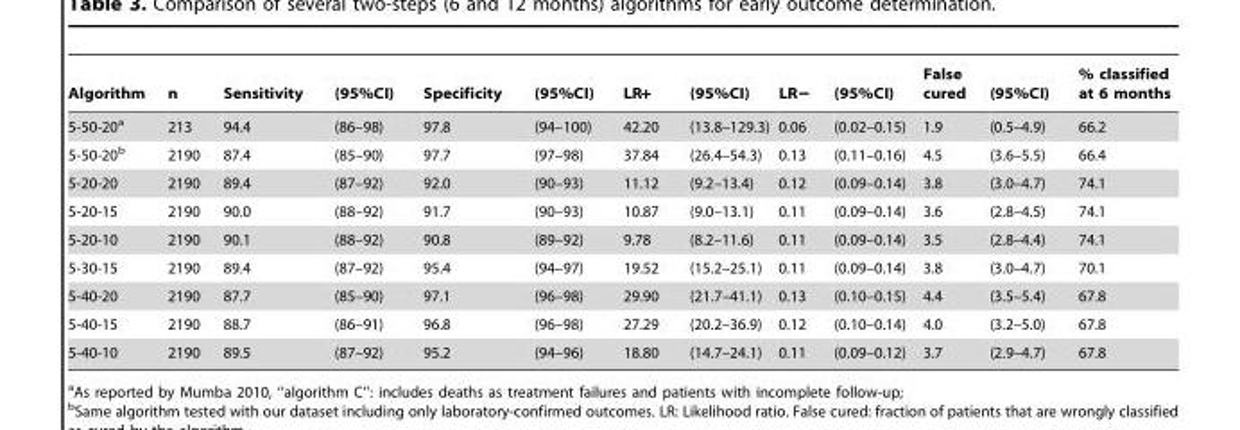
<table><thead><tr><td>Algorithm</td><td>n</td><td>Sensitivity</td><td>(95%CI)</td><td>Specificity</td><td>(95%CI)</td><td>LR+</td><td>(95%CI)</td><td>LR−</td><td>(95%CI)</td><td>False cured</td><td>(95%CI)</td><td>% classified at 6 months</td></tr></thead><tbody><tr><td>5-50-20<sup>a</sup></td><td>213</td><td>94.4</td><td>(86–98)</td><td>97.8</td><td>(94–100)</td><td>42.20</td><td>(13.8–129.3)</td><td>0.06</td><td>(0.02–0.15)</td><td>1.9</td><td>(0.5–4.9)</td><td>66.2</td></tr><tr><td>5-50-20<sup>b</sup></td><td>2190</td><td>87.4</td><td>(85–90)</td><td>97.7</td><td>(97–98)</td><td>37.84</td><td>(26.4–54.3)</td><td>0.13</td><td>(0.11–0.16)</td><td>4.5</td><td>(3.6–5.5)</td><td>66.4</td></tr><tr><td>5-20-20</td><td>2190</td><td>89.4</td><td>(87–92)</td><td>92.0</td><td>(90–93)</td><td>11.12</td><td>(9.2–13.4)</td><td>0.12</td><td>(0.09–0.14)</td><td>3.8</td><td>(3.0–4.7)</td><td>74.1</td></tr><tr><td>5-20-15</td><td>2190</td><td>90.0</td><td>(88–92)</td><td>91.7</td><td>(90–93)</td><td>10.87</td><td>(9.0–13.1)</td><td>0.11</td><td>(0.09–0.14)</td><td>3.6</td><td>(2.8–4.5)</td><td>74.1</td></tr><tr><td>5-20-10</td><td>2190</td><td>90.1</td><td>(88–92)</td><td>90.8</td><td>(89–92)</td><td>9.78</td><td>(8.2–11.6)</td><td>0.11</td><td>(0.09–0.14)</td><td>3.5</td><td>(2.8–4.4)</td><td>74.1</td></tr><tr><td>5-30-15</td><td>2190</td><td>89.4</td><td>(87–92)</td><td>95.4</td><td>(94–97)</td><td>19.52</td><td>(15.2–25.1)</td><td>0.11</td><td>(0.09–0.14)</td><td>3.8</td><td>(3.0–4.7)</td><td>70.1</td></tr><tr><td>5-40-20</td><td>2190</td><td>87.7</td><td>(85–90)</td><td>97.1</td><td>(96–98)</td><td>29.90</td><td>(21.7–41.1)</td><td>0.13</td><td>(0.10–0.15)</td><td>4.4</td><td>(3.5–5.4)</td><td>67.8</td></tr><tr><td>5-40-15</td><td>2190</td><td>88.7</td><td>(86–91)</td><td>96.8</td><td>(96–98)</td><td>27.29</td><td>(20.2–36.9)</td><td>0.12</td><td>(0.10–0.14)</td><td>4.0</td><td>(3.2–5.0)</td><td>67.8</td></tr><tr><td>5-40-10</td><td>2190</td><td>89.5</td><td>(87–92)</td><td>95.2</td><td>(94–96)</td><td>18.80</td><td>(14.7–24.1)</td><td>0.11</td><td>(0.09–0.12)</td><td>3.7</td><td>(2.9–4.7)</td><td>67.8</td></tr></tbody></table>